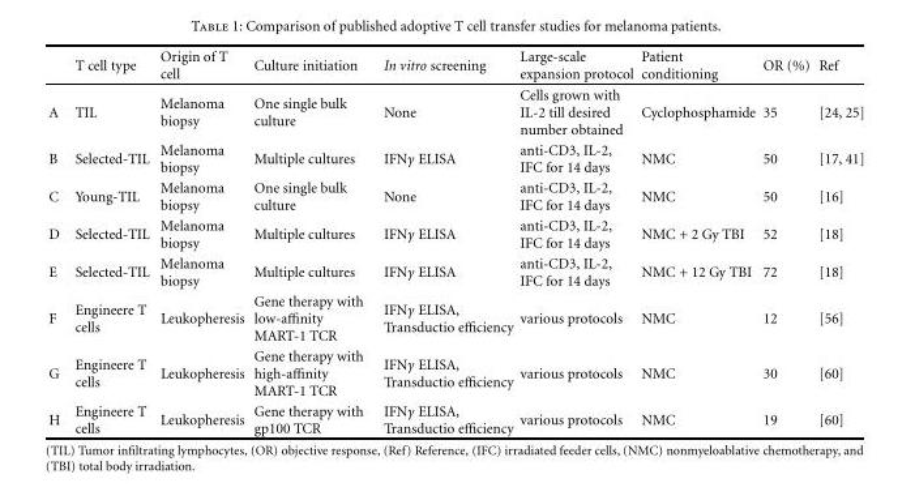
<table><thead><tr><td></td><td>T cell type</td><td>Origin of T cell</td><td>Culture initiation</td><td>In vitro screening</td><td>Large-scale expansion protocol</td><td>Patient conditioning</td><td>OR (%)</td><td>Ref</td></tr></thead><tbody><tr><td>A</td><td>TIL</td><td>Melanoma biopsy</td><td>One single bulk culture</td><td>None</td><td>Cells grown with IL-2 till desired number obtained</td><td>Cyclophosphamide</td><td>35</td><td>[24, 25]</td></tr><tr><td>B</td><td>Selected-TIL</td><td>Melanoma biopsy</td><td>Multiple cultures</td><td>IFNγ ELISA</td><td>anti-CD3, IL-2, IFC for 14 days</td><td>NMC</td><td>50</td><td>[17, 41]</td></tr><tr><td>C</td><td>Young-TIL</td><td>Melanoma biopsy</td><td>One single bulk culture</td><td>None</td><td>anti-CD3, IL-2, IFC for 14 days</td><td>NMC</td><td>50</td><td>[16]</td></tr><tr><td>D</td><td>Selected-TIL</td><td>Melanoma biopsy</td><td>Multiple cultures</td><td>IFNγ ELISA</td><td>anti-CD3, IL-2, IFC for 14 days</td><td>NMC + 2 Gy TBI</td><td>52</td><td>[18]</td></tr><tr><td>E</td><td>Selected-TIL</td><td>Melanoma biopsy</td><td>Multiple cultures</td><td>IFNγ ELISA</td><td>anti-CD3, IL-2, IFC for 14 days</td><td>NMC + 12 Gy TBI</td><td>72</td><td>[18]</td></tr><tr><td>F</td><td>Engineere T cells</td><td>Leukopheresis</td><td>Gene therapy with low-affinity MART-1 TCR</td><td>IFNγ ELISA, Transductio efficiency</td><td>various protocols</td><td>NMC</td><td>12</td><td>[56]</td></tr><tr><td>G</td><td>Engineere T cells</td><td>Leukopheresis</td><td>Gene therapy with high-affinity MART-1 TCR</td><td>IFNγ ELISA, Transductio efficiency</td><td>various protocols</td><td>NMC</td><td>30</td><td>[60]</td></tr><tr><td>H</td><td>Engineere T cells</td><td>Leukopheresis</td><td>Gene therapy with gp100 TCR</td><td>IFNγ ELISA, Transductio efficiency</td><td>various protocols</td><td>NMC</td><td>19</td><td>[60]</td></tr></tbody></table>